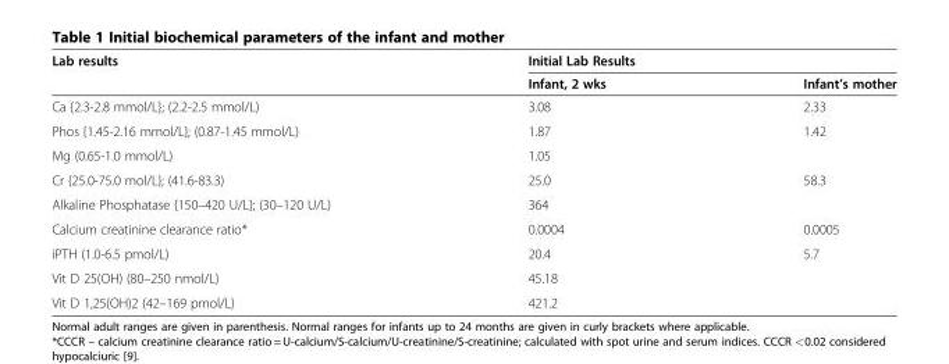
<table><thead><tr><td rowspan="2">Lab results</td><td colspan="2">Initial Lab Results</td></tr><tr><td>Infant, 2 wks</td><td>Infant’s mother</td></tr></thead><tbody><tr><td>Ca {2.3-2.8 mmol/L}; (2.2-2.5 mmol/L)</td><td>3.08</td><td>2.33</td></tr><tr><td>Phos {1.45-2.16 mmol/L}; (0.87-1.45 mmol/L)</td><td>1.87</td><td>1.42</td></tr><tr><td>Mg (0.65-1.0 mmol/L)</td><td>1.05</td><td></td></tr><tr><td>Cr {25.0-75.0 mol/L}; (41.6-83.3)</td><td>25.0</td><td>58.3</td></tr><tr><td>Alkaline Phosphatase {150–420 U/L}; (30–120 U/L)</td><td>364</td><td></td></tr><tr><td>Calcium creatinine clearance ratio*</td><td>0.0004</td><td>0.0005</td></tr><tr><td>iPTH (1.0-6.5 pmol/L)</td><td>20.4</td><td>5.7</td></tr><tr><td>Vit D 25(OH) (80–250 nmol/L)</td><td>45.18</td><td></td></tr><tr><td>Vit D 1,25(OH)2 (42–169 pmol/L)</td><td>421.2</td><td></td></tr></tbody></table>